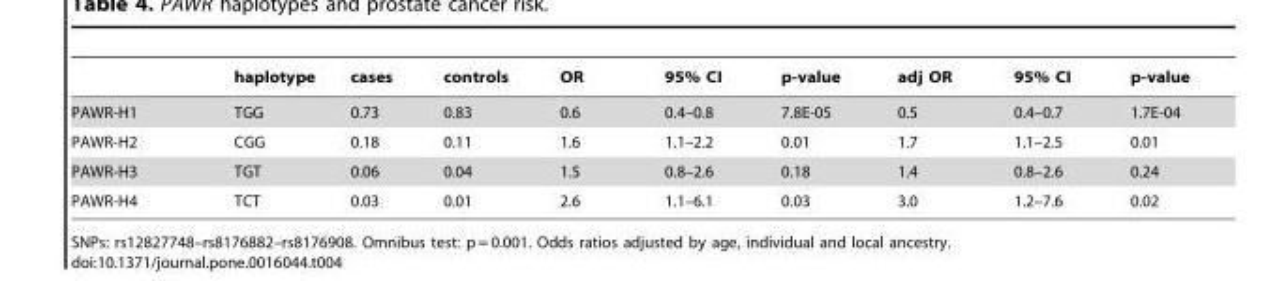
<table><thead><tr><td></td><td>haplotype</td><td>cases</td><td>controls</td><td>OR</td><td>95% CI</td><td>p-value</td><td>adj OR</td><td>95% CI</td><td>p-value</td></tr></thead><tbody><tr><td>PAWR-H1</td><td>TGG</td><td>0.73</td><td>0.83</td><td>0.6</td><td>0.4–0.8</td><td>7.8E-05</td><td>0.5</td><td>0.4–0.7</td><td>1.7E-04</td></tr><tr><td>PAWR-H2</td><td>CGG</td><td>0.18</td><td>0.11</td><td>1.6</td><td>1.1–2.2</td><td>0.01</td><td>1.7</td><td>1.1–2.5</td><td>0.01</td></tr><tr><td>PAWR-H3</td><td>TGT</td><td>0.06</td><td>0.04</td><td>1.5</td><td>0.8–2.6</td><td>0.18</td><td>1.4</td><td>0.8–2.6</td><td>0.24</td></tr><tr><td>PAWR-H4</td><td>TCT</td><td>0.03</td><td>0.01</td><td>2.6</td><td>1.1–6.1</td><td>0.03</td><td>3.0</td><td>1.2–7.6</td><td>0.02</td></tr></tbody></table>